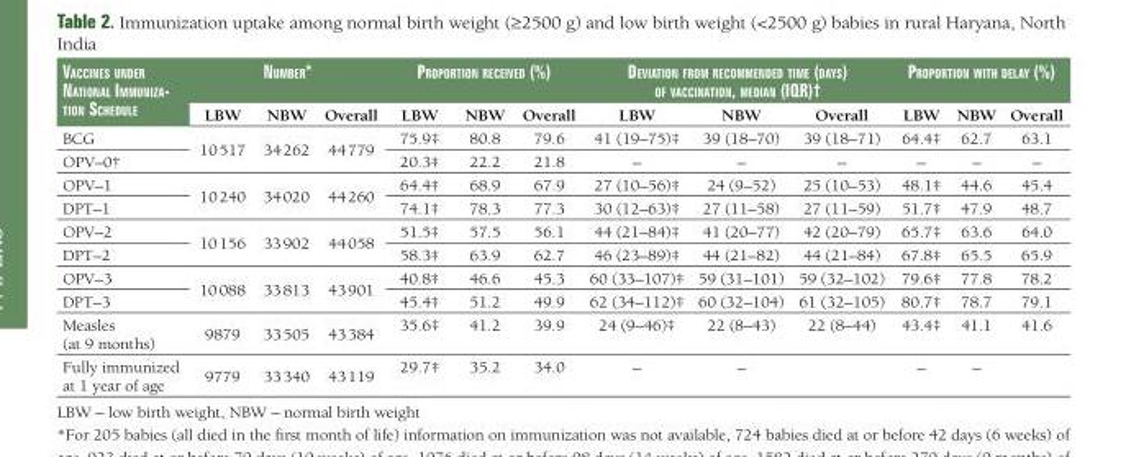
<table><thead><tr><td rowspan="2">VacciNes uNder NatioNal immuNiza- tioN schedule</td><td colspan="3">Number*</td><td colspan="3">ProPortioN receiVed (%)</td><td colspan="3">deViatioN from recommeNded time (days) of VacciNatioN, mediaN (iQr)†</td><td colspan="3">ProPortioN with delay (%)</td></tr><tr><td>LBW</td><td>NBW</td><td>Overall</td><td>LBW</td><td>NBW</td><td>Overall</td><td>LBW</td><td>NBW</td><td>Overall</td><td>LBW</td><td>NBW</td><td>Overall</td></tr></thead><tbody><tr><td>BCG</td><td rowspan="2">10 517</td><td rowspan="2">34 262</td><td rowspan="2">44 779</td><td>75.9‡</td><td>80.8</td><td>79.6</td><td>41 (19–75)‡</td><td>39 (18–70)</td><td>39 (18–71)</td><td>64.4‡</td><td>62.7</td><td>63.1</td></tr><tr><td>OPV–0†</td><td>20.3‡</td><td>22.2</td><td>21.8</td><td>–</td><td>–</td><td>–</td><td>–</td><td>–</td><td>–</td></tr><tr><td>OPV–1</td><td rowspan="2">10 240</td><td rowspan="2">34 020</td><td rowspan="2">44 260</td><td>64.4‡</td><td>68.9</td><td>67.9</td><td>27 (10–56)‡</td><td>24 (9–52)</td><td>25 (10–53)</td><td>48.1‡</td><td>44.6</td><td>45.4</td></tr><tr><td>DPT–1</td><td>74.1‡</td><td>78.3</td><td>77.3</td><td>30 (12–63)‡</td><td>27 (11–58)</td><td>27 (11–59)</td><td>51.7‡</td><td>47.9</td><td>48.7</td></tr><tr><td>OPV–2</td><td rowspan="2">10 156</td><td rowspan="2">33 902</td><td rowspan="2">44 058</td><td>51.5‡</td><td>57.5</td><td>56.1</td><td>44 (21–84)‡</td><td>41 (20–77)</td><td>42 (20–79)</td><td>65.7‡</td><td>63.6</td><td>64.0</td></tr><tr><td>DPT–2</td><td>58.3‡</td><td>63.9</td><td>62.7</td><td>46 (23–89)‡</td><td>44 (21–82)</td><td>44 (21–84)</td><td>67.8‡</td><td>65.5</td><td>65.9</td></tr><tr><td>OPV–3</td><td rowspan="2">10 088</td><td rowspan="2">33 813</td><td rowspan="2">43 901</td><td>40.8‡</td><td>46.6</td><td>45.3</td><td>60 (33–107)‡</td><td>59 (31–101)</td><td>59 (32–102)</td><td>79.6‡</td><td>77.8</td><td>78.2</td></tr><tr><td>DPT–3</td><td>45.4‡</td><td>51.2</td><td>49.9</td><td>62 (34–112)‡</td><td>60 (32–104)</td><td>61 (32–105)</td><td>80.7‡</td><td>78.7</td><td>79.1</td></tr><tr><td>Measles (at 9 months)</td><td>9879</td><td>33 505</td><td>43 384</td><td>35.6‡</td><td>41.2</td><td>39.9</td><td>24 (9–46)‡</td><td>22 (8–43)</td><td>22 (8–44)</td><td>43.4‡</td><td>41.1</td><td>41.6</td></tr><tr><td>Fully immunized at 1 year of age</td><td>9779</td><td>33 340</td><td>43 119</td><td>29.7‡</td><td>35.2</td><td>34.0</td><td>–</td><td>–</td><td></td><td>–</td><td>–</td><td></td></tr></tbody></table>